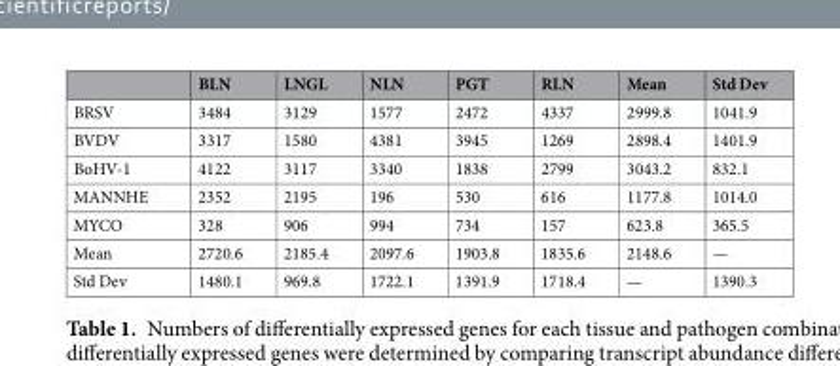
<table><thead><tr><td></td><td>BLN</td><td>LNGL</td><td>NLN</td><td>PGT</td><td>RLN</td><td>Mean</td><td>Std Dev</td></tr></thead><tbody><tr><td>BRSV</td><td>3484</td><td>3129</td><td>1577</td><td>2472</td><td>4337</td><td>2999.8</td><td>1041.9</td></tr><tr><td>BVDV</td><td>3317</td><td>1580</td><td>4381</td><td>3945</td><td>1269</td><td>2898.4</td><td>1401.9</td></tr><tr><td>BoHV-1</td><td>4122</td><td>3117</td><td>3340</td><td>1838</td><td>2799</td><td>3043.2</td><td>832.1</td></tr><tr><td>MANNHE</td><td>2352</td><td>2195</td><td>196</td><td>530</td><td>616</td><td>1177.8</td><td>1014.0</td></tr><tr><td>MYCO</td><td>328</td><td>906</td><td>994</td><td>734</td><td>157</td><td>623.8</td><td>365.5</td></tr><tr><td>Mean</td><td>2720.6</td><td>2185.4</td><td>2097.6</td><td>1903.8</td><td>1835.6</td><td>2148.6</td><td>—</td></tr><tr><td>Std Dev</td><td>1480.1</td><td>969.8</td><td>1722.1</td><td>1391.9</td><td>1718.4</td><td>—</td><td>1390.3</td></tr></tbody></table>